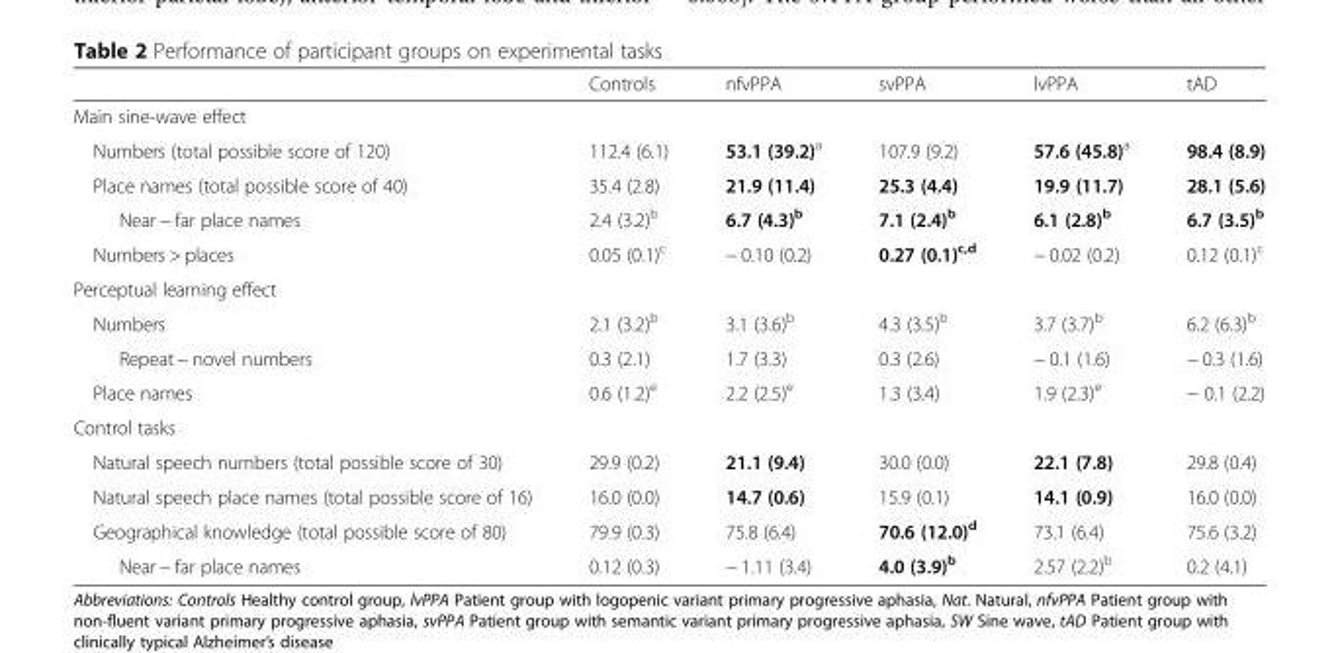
<table><thead><tr><td></td><td>Controls</td><td>nfvPPA</td><td>svPPA</td><td>lvPPA</td><td>tAD</td></tr></thead><tbody><tr><td colspan="6">Main sine-wave effect</td></tr><tr><td>Numbers (total possible score of 120)</td><td>112.4 (6.1)</td><td>53.1 (39.2)<sup>a</sup></td><td>107.9 (9.2)</td><td>57.6 (45.8)<sup>a</sup></td><td>98.4 (8.9)</td></tr><tr><td>Place names (total possible score of 40)</td><td>35.4 (2.8)</td><td>21.9 (11.4)</td><td>25.3 (4.4)</td><td>19.9 (11.7)</td><td>28.1 (5.6)</td></tr><tr><td>Near − far place names</td><td>2.4 (3.2)<sup>b</sup></td><td>6.7 (4.3)<sup>b</sup></td><td>7.1 (2.4)<sup>b</sup></td><td>6.1 (2.8)<sup>b</sup></td><td>6.7 (3.5)<sup>b</sup></td></tr><tr><td>Numbers &gt; places</td><td>0.05 (0.1)<sup>c</sup></td><td>− 0.10 (0.2)</td><td>0.27 (0.1)<sup>c,d</sup></td><td>− 0.02 (0.2)</td><td>0.12 (0.1)<sup>c</sup></td></tr><tr><td colspan="6">Perceptual learning effect</td></tr><tr><td>Numbers</td><td>2.1 (3.2)<sup>b</sup></td><td>3.1 (3.6)<sup>b</sup></td><td>4.3 (3.5)<sup>b</sup></td><td>3.7 (3.7)<sup>b</sup></td><td>6.2 (6.3)<sup>b</sup></td></tr><tr><td>Repeat − novel numbers</td><td>0.3 (2.1)</td><td>1.7 (3.3)</td><td>0.3 (2.6)</td><td>− 0.1 (1.6)</td><td>− 0.3 (1.6)</td></tr><tr><td>Place names</td><td>0.6 (1.2)<sup>e</sup></td><td>2.2 (2.5)<sup>e</sup></td><td>1.3 (3.4)</td><td>1.9 (2.3)<sup>e</sup></td><td>− 0.1 (2.2)</td></tr><tr><td colspan="6">Control tasks</td></tr><tr><td>Natural speech numbers (total possible score of 30)</td><td>29.9 (0.2)</td><td>21.1 (9.4)</td><td>30.0 (0.0)</td><td>22.1 (7.8)</td><td>29.8 (0.4)</td></tr><tr><td>Natural speech place names (total possible score of 16)</td><td>16.0 (0.0)</td><td>14.7 (0.6)</td><td>15.9 (0.1)</td><td>14.1 (0.9)</td><td>16.0 (0.0)</td></tr><tr><td>Geographical knowledge (total possible score of 80)</td><td>79.9 (0.3)</td><td>75.8 (6.4)</td><td>70.6 (12.0)<sup>d</sup></td><td>73.1 (6.4)</td><td>75.6 (3.2)</td></tr><tr><td>Near − far place names</td><td>0.12 (0.3)</td><td>− 1.11 (3.4)</td><td>4.0 (3.9)<sup>b</sup></td><td>2.57 (2.2)<sup>b</sup></td><td>0.2 (4.1)</td></tr></tbody></table>